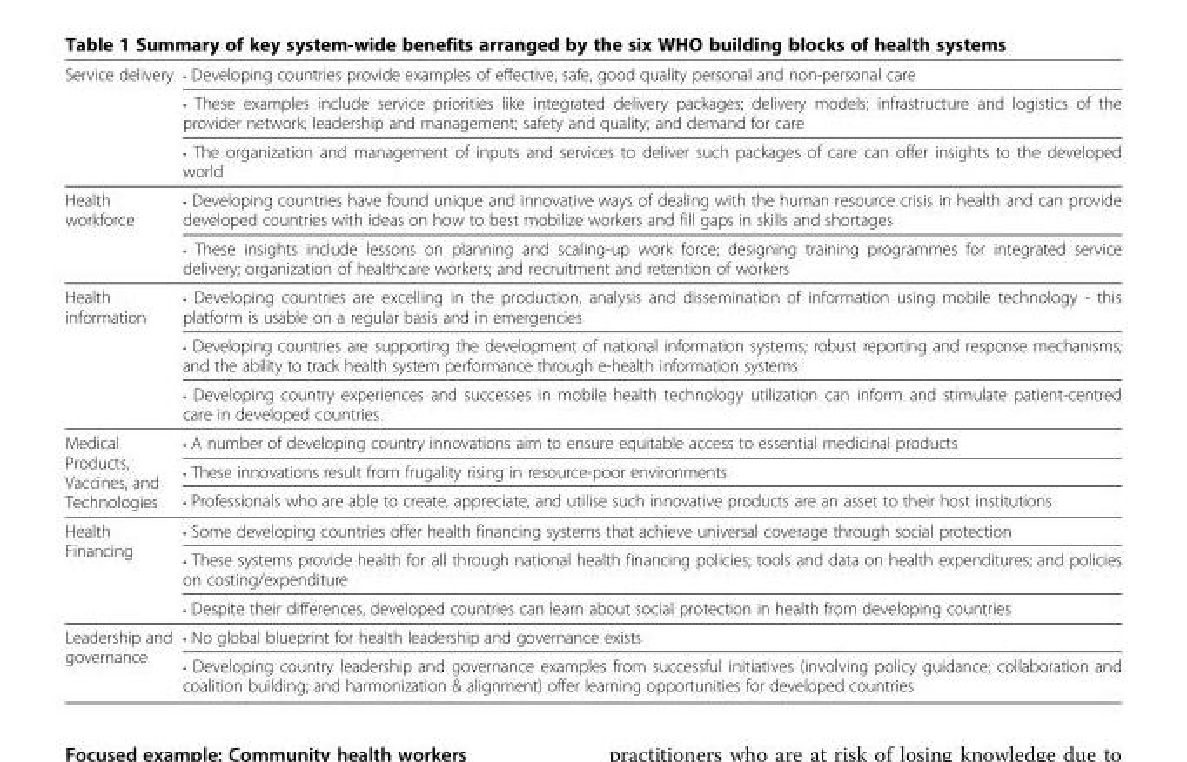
<table><tbody><tr><td rowspan="3">Service delivery</td><td>• Developing countries provide examples of effective, safe, good quality personal and non-personal care</td></tr><tr><td>• These examples include service priorities like integrated delivery packages; delivery models; infrastructure and logistics of the provider network; leadership and management; safety and quality; and demand for care</td></tr><tr><td>• The organization and management of inputs and services to deliver such packages of care can offer insights to the developed world</td></tr><tr><td rowspan="2">Health workforce</td><td>• Developing countries have found unique and innovative ways of dealing with the human resource crisis in health and can provide developed countries with ideas on how to best mobilize workers and fill gaps in skills and shortages</td></tr><tr><td>• These insights include lessons on planning and scaling-up work force; designing training programmes for integrated service delivery; organization of healthcare workers; and recruitment and retention of workers</td></tr><tr><td rowspan="3">Health information</td><td>• Developing countries are excelling in the production, analysis and dissemination of information using mobile technology - this platform is usable on a regular basis and in emergencies</td></tr><tr><td>• Developing countries are supporting the development of national information systems; robust reporting and response mechanisms; and the ability to track health system performance through e-health information systems</td></tr><tr><td>• Developing country experiences and successes in mobile health technology utilization can inform and stimulate patient-centred care in developed countries</td></tr><tr><td rowspan="3">Medical Products, Vaccines, and Technologies</td><td>• A number of developing country innovations aim to ensure equitable access to essential medicinal products</td></tr><tr><td>• These innovations result from frugality rising in resource-poor environments</td></tr><tr><td>• Professionals who are able to create, appreciate, and utilise such innovative products are an asset to their host institutions</td></tr><tr><td rowspan="3">Health Financing</td><td>• Some developing countries offer health financing systems that achieve universal coverage through social protection</td></tr><tr><td>• These systems provide health for all through national health financing policies; tools and data on health expenditures; and policies on costing/expenditure</td></tr><tr><td>• Despite their differences, developed countries can learn about social protection in health from developing countries</td></tr><tr><td rowspan="2">Leadership and governance</td><td>• No global blueprint for health leadership and governance exists</td></tr><tr><td>• Developing country leadership and governance examples from successful initiatives (involving policy guidance; collaboration and coalition building; and harmonization &amp; alignment) offer learning opportunities for developed countries</td></tr></tbody></table>